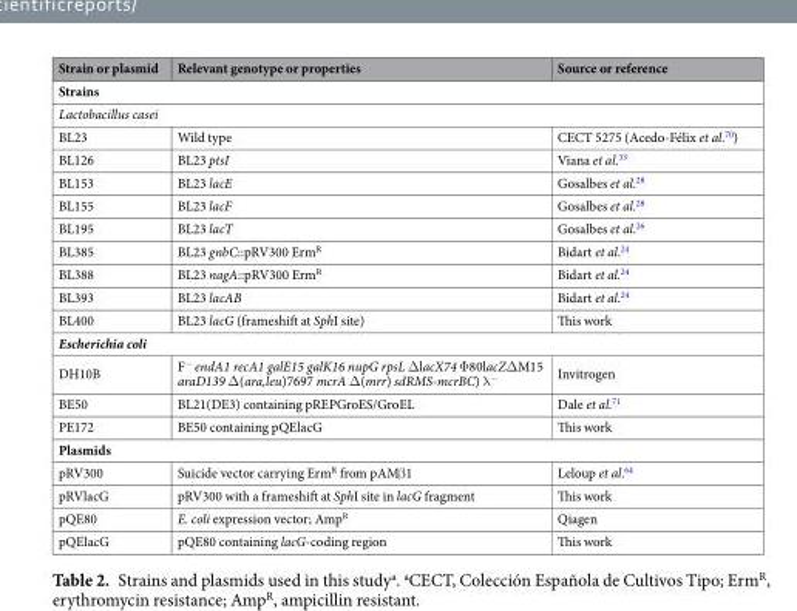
<table><thead><tr><td>Strain or plasmid</td><td>Relevant genotype or properties</td><td>Source or reference</td></tr></thead><tbody><tr><td colspan="3">Strains</td></tr><tr><td colspan="3">Lactobacillus casei</td></tr><tr><td>BL23</td><td>Wild type</td><td>CECT 5275 (Acedo-Félix et al.<sup>70</sup>)</td></tr><tr><td>BL126</td><td>BL23 ptsI</td><td>Viana et al.<sup>33</sup></td></tr><tr><td>BL153</td><td>BL23 lacE</td><td>Gosalbes et al.<sup>28</sup></td></tr><tr><td>BL155</td><td>BL23 lacF</td><td>Gosalbes et al.<sup>28</sup></td></tr><tr><td>BL195</td><td>BL23 lacT</td><td>Gosalbes et al.<sup>26</sup></td></tr><tr><td>BL385</td><td>BL23 gnbC::pRV300 Erm<sup>R</sup></td><td>Bidart et al.<sup>24</sup></td></tr><tr><td>BL388</td><td>BL23 nagA::pRV300 Erm<sup>R</sup></td><td>Bidart et al.<sup>24</sup></td></tr><tr><td>BL393</td><td>BL23 lacAB</td><td>Bidart et al.<sup>24</sup></td></tr><tr><td>BL400</td><td>BL23 lacG (frameshift at SphI site)</td><td>This work</td></tr><tr><td colspan="3">Escherichia coli</td></tr><tr><td>DH10B</td><td>F<sup>−</sup> endA1 recA1 galE15 galK16 nupG rpsL ΔlacX74 Φ80lacZΔM15 araD139 Δ(ara,leu)7697 mcrA Δ(mrr) sdRMS-mcrBC) λ<sup>−</sup></td><td>Invitrogen</td></tr><tr><td>BE50</td><td>BL21(DE3) containing pREPGroES/GroEL</td><td>Dale et al.<sup>71</sup></td></tr><tr><td>PE172</td><td>BE50 containing pQElacG</td><td>This work</td></tr><tr><td colspan="3">Plasmids</td></tr><tr><td>pRV300</td><td>Suicide vector carrying Erm<sup>R</sup> from pAMβ1</td><td>Leloup et al.<sup>64</sup></td></tr><tr><td>pRVlacG</td><td>pRV300 with a frameshift at SphI site in lacG fragment</td><td>This work</td></tr><tr><td>pQE80</td><td>E. coli expression vector; Amp<sup>R</sup></td><td>Qiagen</td></tr><tr><td>pQElacG</td><td>pQE80 containing lacG-coding region</td><td>This work</td></tr></tbody></table>